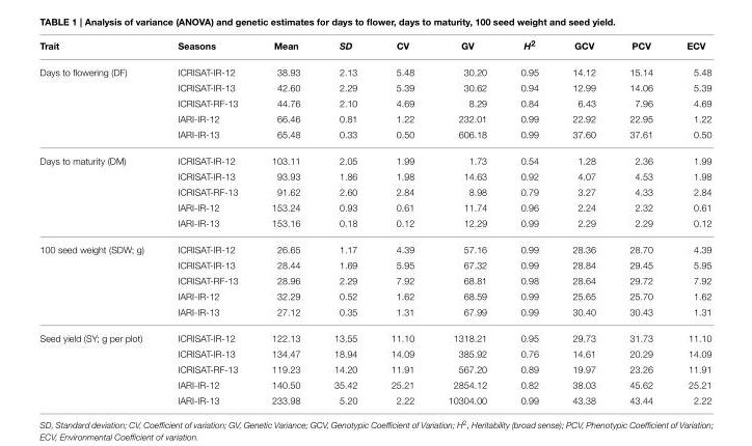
<table><thead><tr><td>Trait</td><td>Seasons</td><td>Mean</td><td>SD</td><td>CV</td><td>GV</td><td>H<sup>2</sup></td><td>GCV</td><td>PCV</td><td>ECV</td></tr></thead><tbody><tr><td rowspan="5">Days to flowering (DF)</td><td>ICRISAT-IR-12</td><td>38.93</td><td>2.13</td><td>5.48</td><td>30.20</td><td>0.95</td><td>14.12</td><td>15.14</td><td>5.48</td></tr><tr><td>ICRISAT-IR-13</td><td>42.60</td><td>2.29</td><td>5.39</td><td>30.62</td><td>0.94</td><td>12.99</td><td>14.06</td><td>5.39</td></tr><tr><td>ICRISAT-RF-13</td><td>44.76</td><td>2.10</td><td>4.69</td><td>8.29</td><td>0.84</td><td>6.43</td><td>7.96</td><td>4.69</td></tr><tr><td>IARI-IR-12</td><td>66.46</td><td>0.81</td><td>1.22</td><td>232.01</td><td>0.99</td><td>22.92</td><td>22.95</td><td>1.22</td></tr><tr><td>IARI-IR-13</td><td>65.48</td><td>0.33</td><td>0.50</td><td>606.18</td><td>0.99</td><td>37.60</td><td>37.61</td><td>0.50</td></tr><tr><td rowspan="5">Days to maturity (DM)</td><td>ICRISAT-IR-12</td><td>103.11</td><td>2.05</td><td>1.99</td><td>1.73</td><td>0.54</td><td>1.28</td><td>2.36</td><td>1.99</td></tr><tr><td>ICRISAT-IR-13</td><td>93.93</td><td>1.86</td><td>1.98</td><td>14.63</td><td>0.92</td><td>4.07</td><td>4.53</td><td>1.98</td></tr><tr><td>ICRISAT-RF-13</td><td>91.62</td><td>2.60</td><td>2.84</td><td>8.98</td><td>0.79</td><td>3.27</td><td>4.33</td><td>2.84</td></tr><tr><td>IARI-IR-12</td><td>153.24</td><td>0.93</td><td>0.61</td><td>11.74</td><td>0.96</td><td>2.24</td><td>2.32</td><td>0.61</td></tr><tr><td>IARI-IR-13</td><td>153.16</td><td>0.18</td><td>0.12</td><td>12.29</td><td>0.99</td><td>2.29</td><td>2.29</td><td>0.12</td></tr><tr><td rowspan="5">100 seed weight (SDW; g)</td><td>ICRISAT-IR-12</td><td>26.65</td><td>1.17</td><td>4.39</td><td>57.16</td><td>0.99</td><td>28.36</td><td>28.70</td><td>4.39</td></tr><tr><td>ICRISAT-IR-13</td><td>28.44</td><td>1.69</td><td>5.95</td><td>67.32</td><td>0.99</td><td>28.84</td><td>29.45</td><td>5.95</td></tr><tr><td>ICRISAT-RF-13</td><td>28.96</td><td>2.29</td><td>7.92</td><td>68.81</td><td>0.98</td><td>28.64</td><td>29.72</td><td>7.92</td></tr><tr><td>IARI-IR-12</td><td>32.29</td><td>0.52</td><td>1.62</td><td>68.59</td><td>0.99</td><td>25.65</td><td>25.70</td><td>1.62</td></tr><tr><td>IARI-IR-13</td><td>27.12</td><td>0.35</td><td>1.31</td><td>67.99</td><td>0.99</td><td>30.40</td><td>30.43</td><td>1.31</td></tr><tr><td rowspan="5">Seed yield (SY; g per plot)</td><td>ICRISAT-IR-12</td><td>122.13</td><td>13.55</td><td>11.10</td><td>1318.21</td><td>0.95</td><td>29.73</td><td>31.73</td><td>11.10</td></tr><tr><td>ICRISAT-IR-13</td><td>134.47</td><td>18.94</td><td>14.09</td><td>385.92</td><td>0.76</td><td>14.61</td><td>20.29</td><td>14.09</td></tr><tr><td>ICRISAT-RF-13</td><td>119.23</td><td>14.20</td><td>11.91</td><td>567.20</td><td>0.89</td><td>19.97</td><td>23.26</td><td>11.91</td></tr><tr><td>IARI-IR-12</td><td>140.50</td><td>35.42</td><td>25.21</td><td>2854.12</td><td>0.82</td><td>38.03</td><td>45.62</td><td>25.21</td></tr><tr><td>IARI-IR-13</td><td>233.98</td><td>5.20</td><td>2.22</td><td>10304.00</td><td>0.99</td><td>43.38</td><td>43.44</td><td>2.22</td></tr></tbody></table>